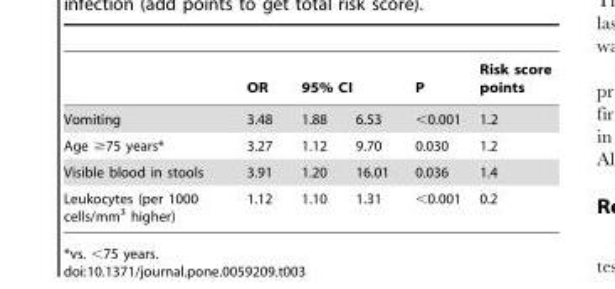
<table><thead><tr><td rowspan="2">Vomiting</td><td rowspan="2">OR 3.48</td><td colspan="2">95% CI</td><td rowspan="2">P &lt;0.001</td><td rowspan="2">Risk score points 1.2</td></tr><tr><td>1.88</td><td>6.53</td></tr></thead><tbody><tr><td>Age ≥75 years*</td><td>3.27</td><td>1.12</td><td>9.70</td><td>0.030</td><td>1.2</td></tr><tr><td>Visible blood in stools</td><td>3.91</td><td>1.20</td><td>16.01</td><td>0.036</td><td>1.4</td></tr><tr><td>Leukocytes (per 1000 cells/mm<sup>3</sup> higher)</td><td>1.12</td><td>1.10</td><td>1.31</td><td>&lt;0.001</td><td>0.2</td></tr></tbody></table>